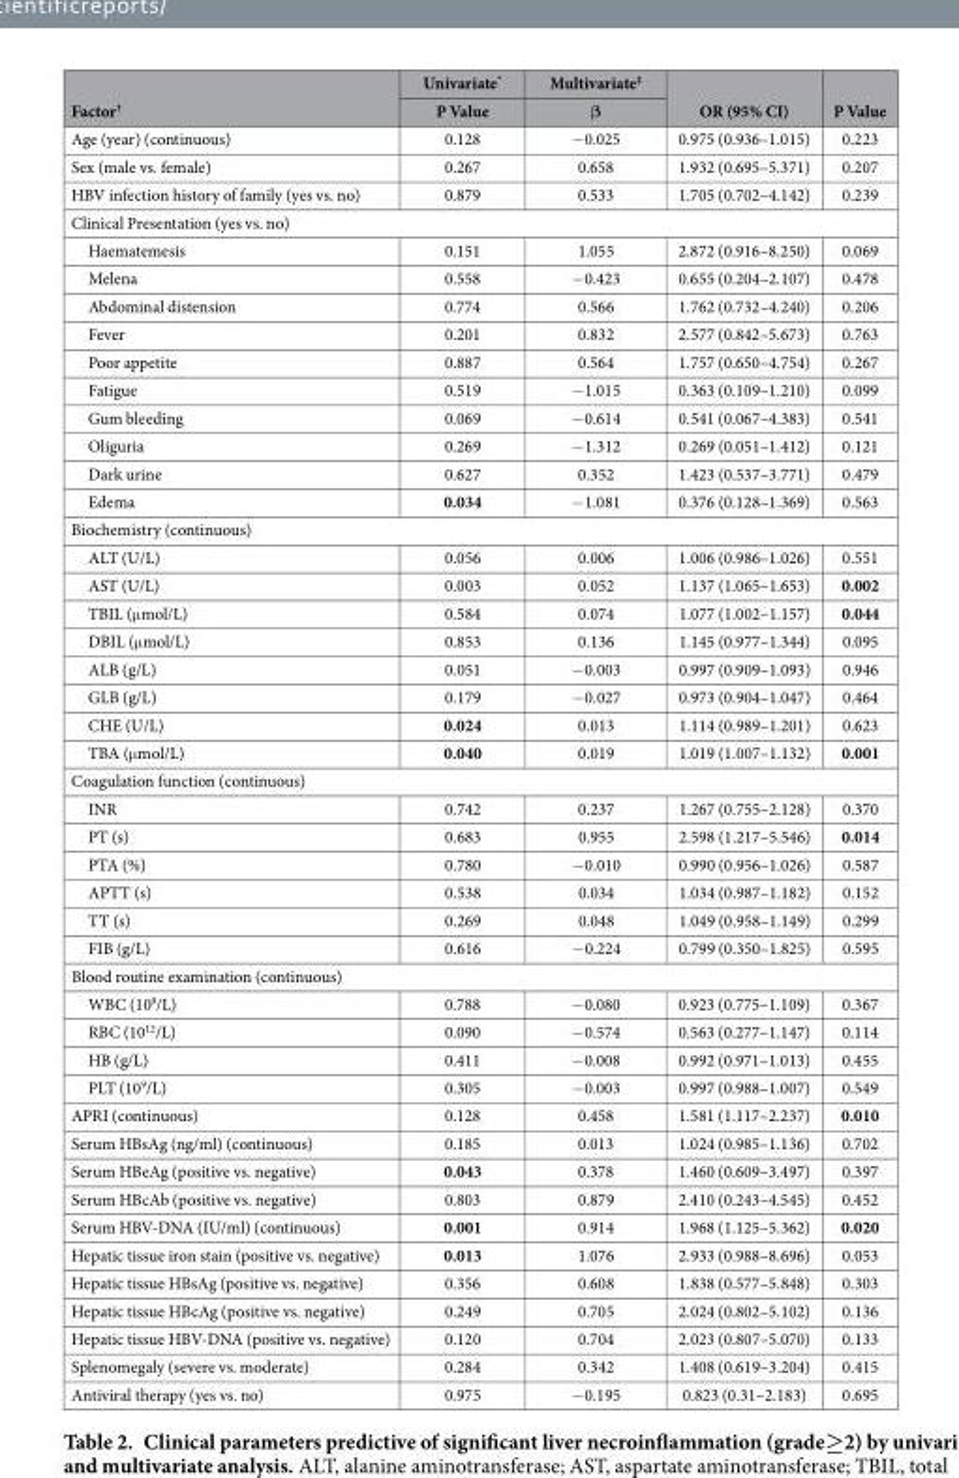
<table><thead><tr><td rowspan="2">Factor†</td><td rowspan="2">Univariate* P Value</td><td rowspan="2">Multivariate‡ β</td><td rowspan="2">OR (95% CI)</td><td rowspan="2">P Value</td></tr><tr></tr></thead><tbody><tr><td>Age (year) (continuous)</td><td>0.128</td><td>− 0.025</td><td>0.975 (0.936–1.015)</td><td>0.223</td></tr><tr><td>Sex (male vs. female)</td><td>0.267</td><td>0.658</td><td>1.932 (0.695–5.371)</td><td>0.207</td></tr><tr><td>HBV infection history of family (yes vs. no)</td><td>0.879</td><td>0.533</td><td>1.705 (0.702–4.142)</td><td>0.239</td></tr><tr><td colspan="5">Clinical Presentation (yes vs. no)</td></tr><tr><td>Haematemesis</td><td>0.151</td><td>1.055</td><td>2.872 (0.916–8.250)</td><td>0.069</td></tr><tr><td>Melena</td><td>0.558</td><td>− 0.423</td><td>0.655 (0.204–2.107)</td><td>0.478</td></tr><tr><td>Abdominal distension</td><td>0.774</td><td>0.566</td><td>1.762 (0.732–4.240)</td><td>0.206</td></tr><tr><td>Fever</td><td>0.201</td><td>0.832</td><td>2.577 (0.842–5.673)</td><td>0.763</td></tr><tr><td>Poor appetite</td><td>0.887</td><td>0.564</td><td>1.757 (0.650–4.754)</td><td>0.267</td></tr><tr><td>Fatigue</td><td>0.519</td><td>− 1.015</td><td>0.363 (0.109–1.210)</td><td>0.099</td></tr><tr><td>Gum bleeding</td><td>0.069</td><td>− 0.614</td><td>0.541 (0.067–4.383)</td><td>0.541</td></tr><tr><td>Oliguria</td><td>0.269</td><td>− 1.312</td><td>0.269 (0.051–1.412)</td><td>0.121</td></tr><tr><td>Dark urine</td><td>0.627</td><td>0.352</td><td>1.423 (0.537–3.771)</td><td>0.479</td></tr><tr><td>Edema</td><td>0.034</td><td>− 1.081</td><td>0.376 (0.128–1.369)</td><td>0.563</td></tr><tr><td colspan="5">Biochemistry (continuous)</td></tr><tr><td>ALT (U/L)</td><td>0.056</td><td>0.006</td><td>1.006 (0.986–1.026)</td><td>0.551</td></tr><tr><td>AST (U/L)</td><td>0.003</td><td>0.052</td><td>1.137 (1.065–1.653)</td><td>0.002</td></tr><tr><td>TBIL (μ mol/L)</td><td>0.584</td><td>0.074</td><td>1.077 (1.002–1.157)</td><td>0.044</td></tr><tr><td>DBIL (μ mol/L)</td><td>0.853</td><td>0.136</td><td>1.145 (0.977–1.344)</td><td>0.095</td></tr><tr><td>ALB (g/L)</td><td>0.051</td><td>− 0.003</td><td>0.997 (0.909–1.093)</td><td>0.946</td></tr><tr><td>GLB (g/L)</td><td>0.179</td><td>− 0.027</td><td>0.973 (0.904–1.047)</td><td>0.464</td></tr><tr><td>CHE (U/L)</td><td>0.024</td><td>0.013</td><td>1.114 (0.989–1.201)</td><td>0.623</td></tr><tr><td>TBA (μ mol/L)</td><td>0.040</td><td>0.019</td><td>1.019 (1.007–1.132)</td><td>0.001</td></tr><tr><td colspan="5">Coagulation function (continuous)</td></tr><tr><td>INR</td><td>0.742</td><td>0.237</td><td>1.267 (0.755–2.128)</td><td>0.370</td></tr><tr><td>PT (s)</td><td>0.683</td><td>0.955</td><td>2.598 (1.217–5.546)</td><td>0.014</td></tr><tr><td>PTA (%)</td><td>0.780</td><td>− 0.010</td><td>0.990 (0.956–1.026)</td><td>0.587</td></tr><tr><td>APTT (s)</td><td>0.538</td><td>0.034</td><td>1.034 (0.987–1.182)</td><td>0.152</td></tr><tr><td>TT (s)</td><td>0.269</td><td>0.048</td><td>1.049 (0.958–1.149)</td><td>0.299</td></tr><tr><td>FIB (g/L)</td><td>0.616</td><td>− 0.224</td><td>0.799 (0.350–1.825)</td><td>0.595</td></tr><tr><td colspan="5">Blood routine examination (continuous)</td></tr><tr><td>WBC (10<sup>9</sup>/L)</td><td>0.788</td><td>− 0.080</td><td>0.923 (0.775–1.109)</td><td>0.367</td></tr><tr><td>RBC (10<sup>12</sup>/L)</td><td>0.090</td><td>− 0.574</td><td>0.563 (0.277–1.147)</td><td>0.114</td></tr><tr><td>HB (g/L)</td><td>0.411</td><td>− 0.008</td><td>0.992 (0.971–1.013)</td><td>0.455</td></tr><tr><td>PLT (10<sup>9</sup>/L)</td><td>0.305</td><td>− 0.003</td><td>0.997 (0.988–1.007)</td><td>0.549</td></tr><tr><td>APRI (continuous)</td><td>0.128</td><td>0.458</td><td>1.581 (1.117–2.237)</td><td>0.010</td></tr><tr><td>Serum HBsAg (ng/ml) (continuous)</td><td>0.185</td><td>0.013</td><td>1.024 (0.985–1.136)</td><td>0.702</td></tr><tr><td>Serum HBeAg (positive vs. negative)</td><td>0.043</td><td>0.378</td><td>1.460 (0.609–3.497)</td><td>0.397</td></tr><tr><td>Serum HBcAb (positive vs. negative)</td><td>0.803</td><td>0.879</td><td>2.410 (0.243–4.545)</td><td>0.452</td></tr><tr><td>Serum HBV-DNA (IU/ml) (continuous)</td><td>0.001</td><td>0.914</td><td>1.968 (1.125–5.362)</td><td>0.020</td></tr><tr><td>Hepatic tissue iron stain (positive vs. negative)</td><td>0.013</td><td>1.076</td><td>2.933 (0.988–8.696)</td><td>0.053</td></tr><tr><td>Hepatic tissue HBsAg (positive vs. negative)</td><td>0.356</td><td>0.608</td><td>1.838 (0.577–5.848)</td><td>0.303</td></tr><tr><td>Hepatic tissue HBcAg (positive vs. negative)</td><td>0.249</td><td>0.705</td><td>2.024 (0.802–5.102)</td><td>0.136</td></tr><tr><td>Hepatic tissue HBV-DNA (positive vs. negative)</td><td>0.120</td><td>0.704</td><td>2.023 (0.807–5.070)</td><td>0.133</td></tr><tr><td>Splenomegaly (severe vs. moderate)</td><td>0.284</td><td>0.342</td><td>1.408 (0.619–3.204)</td><td>0.415</td></tr><tr><td>Antiviral therapy (yes vs. no)</td><td>0.975</td><td>− 0.195</td><td>0.823 (0.31–2.183)</td><td>0.695</td></tr></tbody></table>